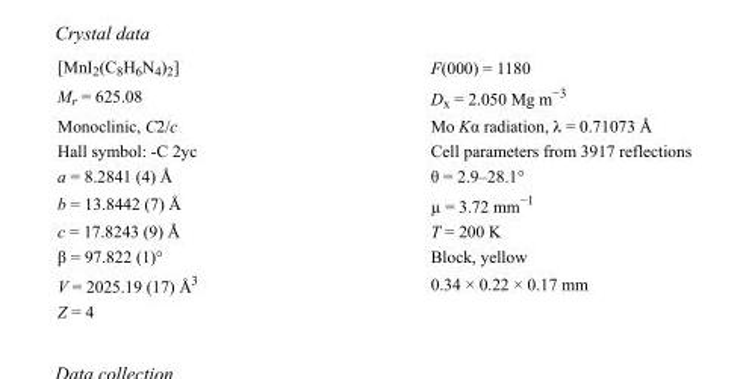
<table><tbody><tr><td>[MnI<sub>2</sub>(C<sub>8</sub>H<sub>6</sub>N<sub>4</sub>)<sub>2</sub>]</td><td>F(000) = 1180</td></tr><tr><td>M<sub>r</sub> = 625.08</td><td>D<sub>x</sub> = 2.050 Mg m<sup>−3</sup></td></tr><tr><td>Monoclinic, C2/c</td><td>Mo Kα radiation, λ = 0.71073 Å</td></tr><tr><td>Hall symbol: -C 2yc</td><td>Cell parameters from 3917 reflections</td></tr><tr><td>a = 8.2841 (4) Å</td><td>θ = 2.9–28.1°</td></tr><tr><td>b = 13.8442 (7) Å</td><td>µ = 3.72 mm<sup>−1</sup></td></tr><tr><td>c = 17.8243 (9) Å</td><td>T = 200 K</td></tr><tr><td>β = 97.822 (1)°</td><td>Block, yellow</td></tr><tr><td>V = 2025.19 (17) Å<sup>3</sup></td><td>0.34 × 0.22 × 0.17 mm</td></tr><tr><td>Z = 4</td><td></td></tr></tbody></table>